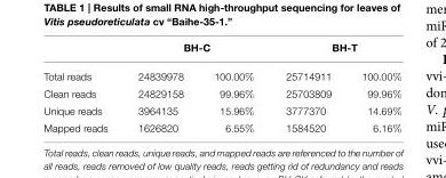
<table><thead><tr><td rowspan="2">Total reads</td><td colspan="2">BH-C</td><td colspan="2">BH-T</td></tr><tr><td>24839978</td><td>100.00%</td><td>25714911</td><td>100.00%</td></tr></thead><tbody><tr><td>Clean reads</td><td>24829158</td><td>99.96%</td><td>25703809</td><td>99.96%</td></tr><tr><td>Unique reads</td><td>3964135</td><td>15.96%</td><td>3777370</td><td>14.69%</td></tr><tr><td>Mapped reads</td><td>1626820</td><td>6.55%</td><td>1584520</td><td>6.16%</td></tr></tbody></table>